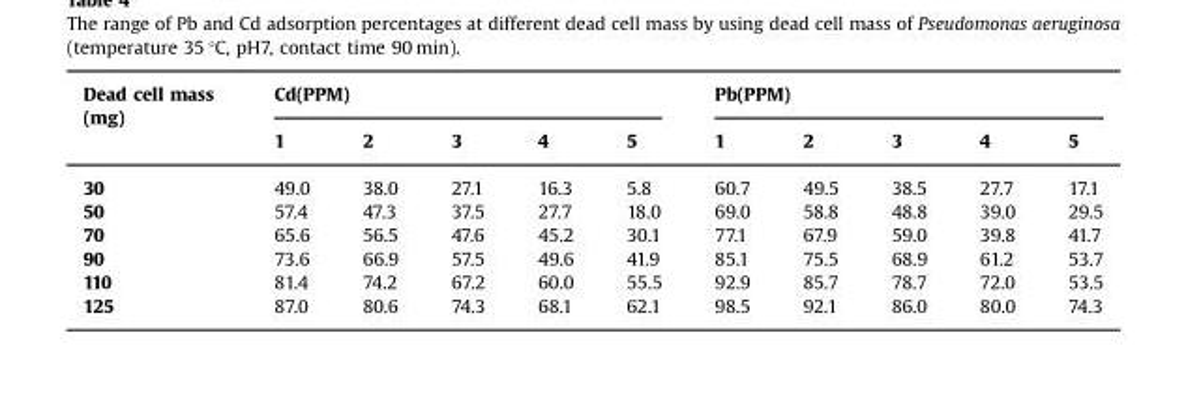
<table><thead><tr><td rowspan="2">Dead cell mass (mg)</td><td colspan="5">Cd(PPM)</td><td colspan="5">Pb(PPM)</td></tr><tr><td>1</td><td>2</td><td>3</td><td>4</td><td>5</td><td>1</td><td>2</td><td>3</td><td>4</td><td>5</td></tr></thead><tbody><tr><td>30</td><td>49.0</td><td>38.0</td><td>27.1</td><td>16.3</td><td>5.8</td><td>60.7</td><td>49.5</td><td>38.5</td><td>27.7</td><td>17.1</td></tr><tr><td>50</td><td>57.4</td><td>47.3</td><td>37.5</td><td>27.7</td><td>18.0</td><td>69.0</td><td>58.8</td><td>48.8</td><td>39.0</td><td>29.5</td></tr><tr><td>70</td><td>65.6</td><td>56.5</td><td>47.6</td><td>45.2</td><td>30.1</td><td>77.1</td><td>67.9</td><td>59.0</td><td>39.8</td><td>41.7</td></tr><tr><td>90</td><td>73.6</td><td>66.9</td><td>57.5</td><td>49.6</td><td>41.9</td><td>85.1</td><td>75.5</td><td>68.9</td><td>61.2</td><td>53.7</td></tr><tr><td>110</td><td>81.4</td><td>74.2</td><td>67.2</td><td>60.0</td><td>55.5</td><td>92.9</td><td>85.7</td><td>78.7</td><td>72.0</td><td>53.5</td></tr><tr><td>125</td><td>87.0</td><td>80.6</td><td>74.3</td><td>68.1</td><td>62.1</td><td>98.5</td><td>92.1</td><td>86.0</td><td>80.0</td><td>74.3</td></tr></tbody></table>